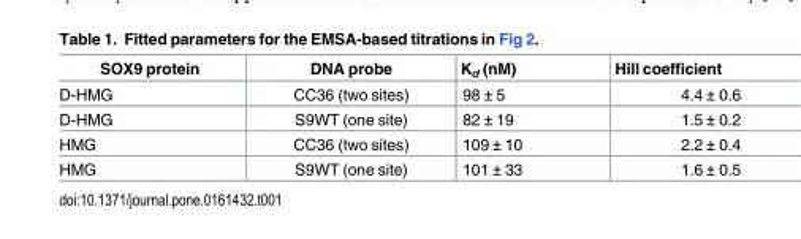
<table><thead><tr><td>SOX9 protein</td><td>DNA probe</td><td>K<sub>d</sub> (nM)</td><td>Hill coefficient</td></tr></thead><tbody><tr><td>D-HMG</td><td>CC36 (two sites)</td><td>98 ± 5</td><td>4.4 ± 0.6</td></tr><tr><td>D-HMG</td><td>S9WT (one site)</td><td>82 ± 19</td><td>1.5 ± 0.2</td></tr><tr><td>HMG</td><td>CC36 (two sites)</td><td>109 ± 10</td><td>2.2 ± 0.4</td></tr><tr><td>HMG</td><td>S9WT (one site)</td><td>101 ± 33</td><td>1.6 ± 0.5</td></tr></tbody></table>